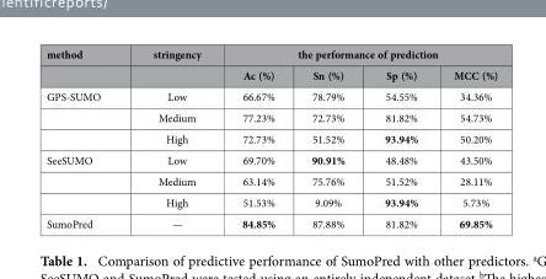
<table><thead><tr><td rowspan="2">method</td><td rowspan="2">stringency</td><td colspan="4">the performance of prediction</td></tr><tr><td>Ac (%)</td><td>Sn (%)</td><td>Sp (%)</td><td>MCC (%)</td></tr></thead><tbody><tr><td rowspan="3">GPS-SUMO</td><td>Low</td><td>66.67%</td><td>78.79%</td><td>54.55%</td><td>34.36%</td></tr><tr><td>Medium</td><td>77.23%</td><td>72.73%</td><td>81.82%</td><td>54.73%</td></tr><tr><td>High</td><td>72.73%</td><td>51.52%</td><td>93.94%</td><td>50.20%</td></tr><tr><td rowspan="3">SeeSUMO</td><td>Low</td><td>69.70%</td><td>90.91%</td><td>48.48%</td><td>43.50%</td></tr><tr><td>Medium</td><td>63.14%</td><td>75.76%</td><td>51.52%</td><td>28.11%</td></tr><tr><td>High</td><td>51.53%</td><td>9.09%</td><td>93.94%</td><td>5.73%</td></tr><tr><td>SumoPred</td><td>—</td><td>84.85%</td><td>87.88%</td><td>81.82%</td><td>69.85%</td></tr></tbody></table>